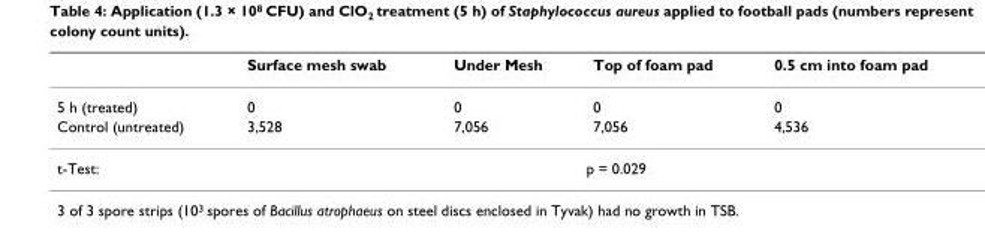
<table><thead><tr><td></td><td>Surface mesh swab</td><td>Under Mesh</td><td>Top of foam pad</td><td>0.5 cm into foam pad</td></tr></thead><tbody><tr><td>5 h (treated)</td><td>0</td><td>0</td><td>0</td><td>0</td></tr><tr><td>Control (untreated)</td><td>3,528</td><td>7,056</td><td>7,056</td><td>4,536</td></tr><tr><td>t-Test:</td><td colspan="4">p = 0.029</td></tr></tbody></table>